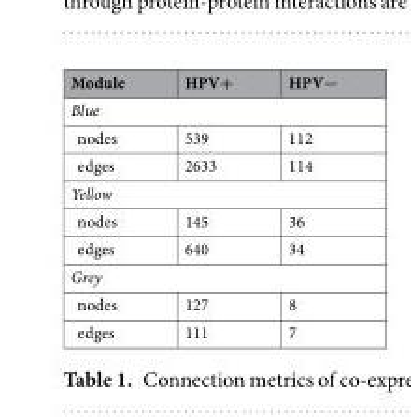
<table><thead><tr><td>Module</td><td>HPV+</td><td>HPV−</td></tr></thead><tbody><tr><td colspan="3">Blue</td></tr><tr><td>nodes</td><td>539</td><td>112</td></tr><tr><td>edges</td><td>2633</td><td>114</td></tr><tr><td colspan="3">Yellow</td></tr><tr><td>nodes</td><td>145</td><td>36</td></tr><tr><td>edges</td><td>640</td><td>34</td></tr><tr><td colspan="3">Grey</td></tr><tr><td>nodes</td><td>127</td><td>8</td></tr><tr><td>edges</td><td>111</td><td>7</td></tr></tbody></table>